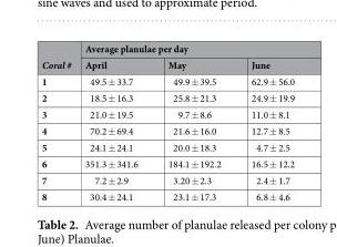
<table><thead><tr><td rowspan="2">Coral #</td><td colspan="3">Average planulae per day</td></tr><tr><td>April</td><td>May</td><td>June</td></tr></thead><tbody><tr><td>1</td><td>49.5 ± 33.7</td><td>49.9 ± 39.5</td><td>62.9 ± 56.0</td></tr><tr><td>2</td><td>18.5 ± 16.3</td><td>25.8 ± 21.3</td><td>24.9 ± 19.9</td></tr><tr><td>3</td><td>21.0 ± 19.5</td><td>9.7 ± 8.6</td><td>11.0 ± 8.1</td></tr><tr><td>4</td><td>70.2 ± 69.4</td><td>21.6 ± 16.0</td><td>12.7 ± 8.5</td></tr><tr><td>5</td><td>24.1 ± 24.1</td><td>20.0 ± 18.3</td><td>4.7 ± 2.5</td></tr><tr><td>6</td><td>351.3 ± 341.6</td><td>184.1 ± 192.2</td><td>16.5 ± 12.2</td></tr><tr><td>7</td><td>7.2 ± 2.9</td><td>3.20 ± 2.3</td><td>2.4 ± 1.7</td></tr><tr><td>8</td><td>30.4 ± 24.1</td><td>23.1 ± 17.3</td><td>6.8 ± 4.6</td></tr></tbody></table>